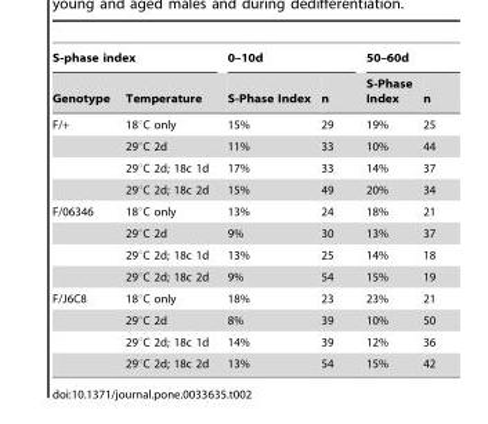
<table><thead><tr><td colspan="2">S-phase index</td><td colspan="2">0–10d</td><td colspan="2">50–60d</td></tr><tr><td>Genotype</td><td>Temperature</td><td>S-Phase Index</td><td>n</td><td>S-Phase Index</td><td>n</td></tr></thead><tbody><tr><td rowspan="4">F/+</td><td>18°C only</td><td>15%</td><td>29</td><td>19%</td><td>25</td></tr><tr><td>29°C 2d</td><td>11%</td><td>33</td><td>10%</td><td>44</td></tr><tr><td>29°C 2d; 18c 1d</td><td>17%</td><td>33</td><td>14%</td><td>37</td></tr><tr><td>29°C 2d; 18c 2d</td><td>15%</td><td>49</td><td>20%</td><td>34</td></tr><tr><td rowspan="4">F/06346</td><td>18°C only</td><td>13%</td><td>24</td><td>18%</td><td>21</td></tr><tr><td>29°C 2d</td><td>9%</td><td>30</td><td>13%</td><td>37</td></tr><tr><td>29°C 2d; 18c 1d</td><td>13%</td><td>25</td><td>14%</td><td>18</td></tr><tr><td>29°C 2d; 18c 2d</td><td>9%</td><td>54</td><td>15%</td><td>19</td></tr><tr><td rowspan="4">F/J6C8</td><td>18°C only</td><td>18%</td><td>23</td><td>23%</td><td>21</td></tr><tr><td>29°C 2d</td><td>8%</td><td>39</td><td>10%</td><td>50</td></tr><tr><td>29°C 2d; 18c 1d</td><td>14%</td><td>39</td><td>12%</td><td>36</td></tr><tr><td>29°C 2d; 18c 2d</td><td>13%</td><td>54</td><td>15%</td><td>42</td></tr></tbody></table>